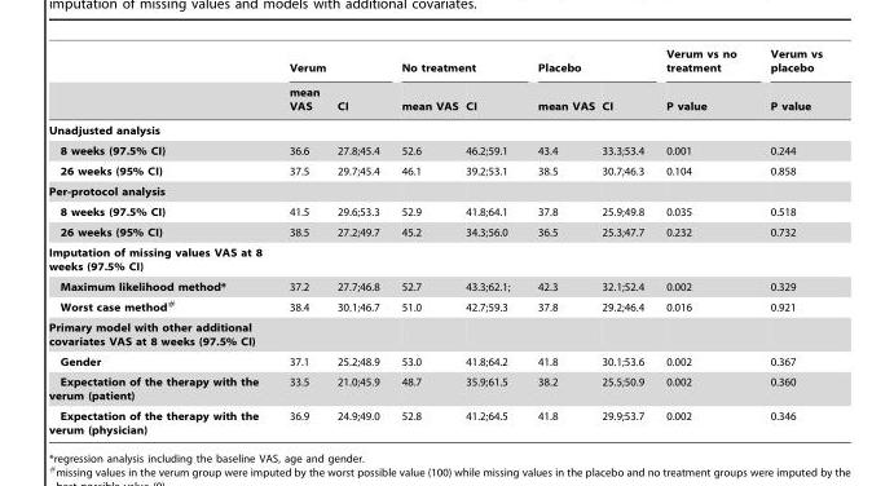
<table><thead><tr><td rowspan="2"></td><td colspan="2">Verum</td><td colspan="2">No treatment</td><td colspan="2">Placebo</td><td rowspan="2">Verum vs no treatment P value</td><td rowspan="2">Verum vs placebo P value</td></tr><tr><td>mean VAS</td><td>CI</td><td>mean VAS</td><td>CI</td><td>mean VAS</td><td>CI</td></tr></thead><tbody><tr><td colspan="9">Unadjusted analysis</td></tr><tr><td>8 weeks (97.5% CI)</td><td>36.6</td><td>27.8;45.4</td><td>52.6</td><td>46.2;59.1</td><td>43.4</td><td>33.3;53.4</td><td>0.001</td><td>0.244</td></tr><tr><td>26 weeks (95% CI)</td><td>37.5</td><td>29.7;45.4</td><td>46.1</td><td>39.2;53.1</td><td>38.5</td><td>30.7;46.3</td><td>0.104</td><td>0.858</td></tr><tr><td colspan="9">Per-protocol analysis</td></tr><tr><td>8 weeks (97.5% CI)</td><td>41.5</td><td>29.6;53.3</td><td>52.9</td><td>41.8;64.1</td><td>37.8</td><td>25.9;49.8</td><td>0.035</td><td>0.518</td></tr><tr><td>26 weeks (95% CI)</td><td>38.5</td><td>27.2;49.7</td><td>45.2</td><td>34.3;56.0</td><td>36.5</td><td>25.3;47.7</td><td>0.232</td><td>0.732</td></tr><tr><td colspan="9">Imputation of missing values VAS at 8 weeks (97.5% CI)</td></tr><tr><td>Maximum likelihood method*</td><td>37.2</td><td>27.7;46.8</td><td>52.7</td><td>43.3;62.1;</td><td>42.3</td><td>32.1;52.4</td><td>0.002</td><td>0.329</td></tr><tr><td>Worst case method#</td><td>38.4</td><td>30.1;46.7</td><td>51.0</td><td>42.7;59.3</td><td>37.8</td><td>29.2;46.4</td><td>0.016</td><td>0.921</td></tr><tr><td colspan="9">Primary model with other additional covariates VAS at 8 weeks (97.5% CI)</td></tr><tr><td>Gender</td><td>37.1</td><td>25.2;48.9</td><td>53.0</td><td>41.8;64.2</td><td>41.8</td><td>30.1;53.6</td><td>0.002</td><td>0.367</td></tr><tr><td>Expectation of the therapy with the verum (patient)</td><td>33.5</td><td>21.0;45.9</td><td>48.7</td><td>35.9;61.5</td><td>38.2</td><td>25.5;50.9</td><td>0.002</td><td>0.360</td></tr><tr><td>Expectation of the therapy with the verum (physician)</td><td>36.9</td><td>24.9;49.0</td><td>52.8</td><td>41.2;64.5</td><td>41.8</td><td>29.9;53.7</td><td>0.002</td><td>0.346</td></tr></tbody></table>